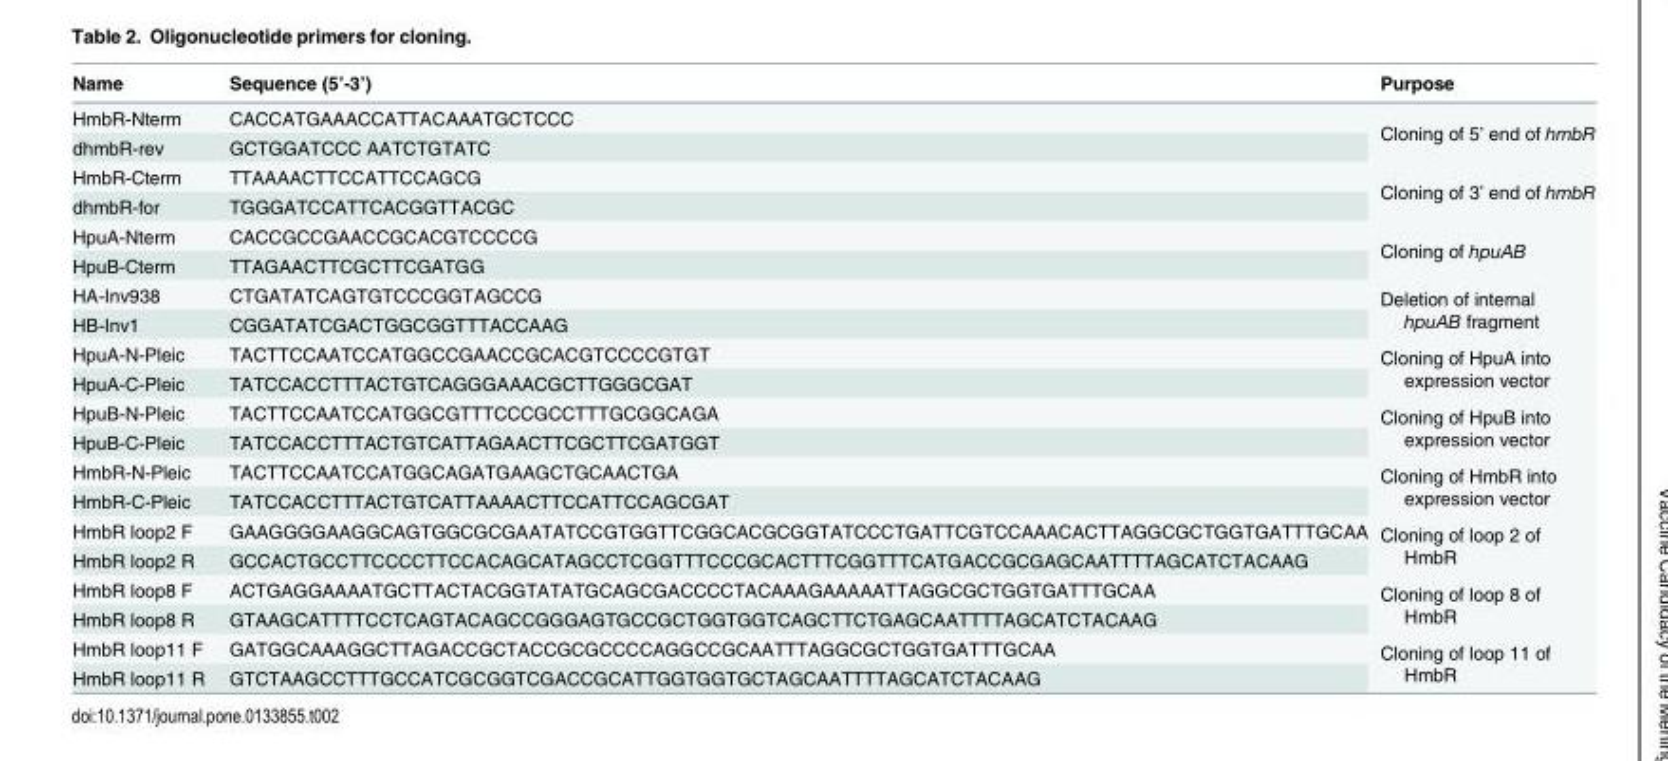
<table><thead><tr><td>Name</td><td>Sequence (5’-3’)</td><td>Purpose</td></tr></thead><tbody><tr><td>HmbR-Nterm</td><td>CACCATGAAACCATTACAAATGCTCCC</td><td rowspan="2">Cloning of 5’ end of hmbR</td></tr><tr><td>dhmbR-rev</td><td>GCTGGATCCC AATCTGTATC</td></tr><tr><td>HmbR-Cterm</td><td>TTAAAACTTCCATTCCAGCG</td><td rowspan="2">Cloning of 3’ end of hmbR</td></tr><tr><td>dhmbR-for</td><td>TGGGATCCATTCACGGTTACGC</td></tr><tr><td>HpuA-Nterm</td><td>CACCGCCGAACCGCACGTCCCCG</td><td rowspan="2">Cloning of hpuAB</td></tr><tr><td>HpuB-Cterm</td><td>TTAGAACTTCGCTTCGATGG</td></tr><tr><td>HA-Inv938</td><td>CTGATATCAGTGTCCCGGTAGCCG</td><td rowspan="2">Deletion of internal hpuAB fragment</td></tr><tr><td>HB-Inv1</td><td>CGGATATCGACTGGCGGTTTACCAAG</td></tr><tr><td>HpuA-N-Pleic</td><td>TACTTCCAATCCATGGCCGAACCGCACGTCCCCGTGT</td><td rowspan="2">Cloning of HpuA into expression vector</td></tr><tr><td>HpuA-C-Pleic</td><td>TATCCACCTTTACTGTCAGGGAAACGCTTGGGCGAT</td></tr><tr><td>HpuB-N-Pleic</td><td>TACTTCCAATCCATGGCGTTTCCCGCCTTTGCGGCAGA</td><td rowspan="2">Cloning of HpuB into expression vector</td></tr><tr><td>HpuB-C-Pleic</td><td>TATCCACCTTTACTGTCATTAGAACTTCGCTTCGATGGT</td></tr><tr><td>HmbR-N-Pleic</td><td>TACTTCCAATCCATGGCAGATGAAGCTGCAACTGA</td><td rowspan="2">Cloning of HmbR into expression vector</td></tr><tr><td>HmbR-C-Pleic</td><td>TATCCACCTTTACTGTCATTAAAACTTCCATTCCAGCGAT</td></tr><tr><td>HmbR loop2 F</td><td>GAAGGGGAAGGCAGTGGCGCGAATATCCGTGGTTCGGCACGCGGTATCCCTGATTCGTCCAAACACTTAGGCGCTGGTGATTTGCAA</td><td rowspan="2">Cloning of loop 2 of HmbR</td></tr><tr><td>HmbR loop2 R</td><td>GCCACTGCCTTCCCCTTCCACAGCATAGCCTCGGTTTCCCGCACTTTCGGTTTCATGACCGCGAGCAATTTTAGCATCTACAAG</td></tr><tr><td>HmbR loop8 F</td><td>ACTGAGGAAAATGCTTACTACGGTATATGCAGCGACCCCTACAAAGAAAAATTAGGCGCTGGTGATTTGCAA</td><td rowspan="2">Cloning of loop 8 of HmbR</td></tr><tr><td>HmbR loop8 R</td><td>GTAAGCATTTTCCTCAGTACAGCCGGGAGTGCCGCTGGTGGTCAGCTTCTGAGCAATTTTAGCATCTACAAG</td></tr><tr><td>HmbR loop11 F</td><td>GATGGCAAAGGCTTAGACCGCTACCGCGCCCCAGGCCGCAATTTAGGCGCTGGTGATTTGCAA</td><td rowspan="2">Cloning of loop 11 of HmbR</td></tr><tr><td>HmbR loop11 R</td><td>GTCTAAGCCTTTGCCATCGCGGTCGACCGCATTGGTGGTGCTAGCAATTTTAGCATCTACAAG</td></tr></tbody></table>